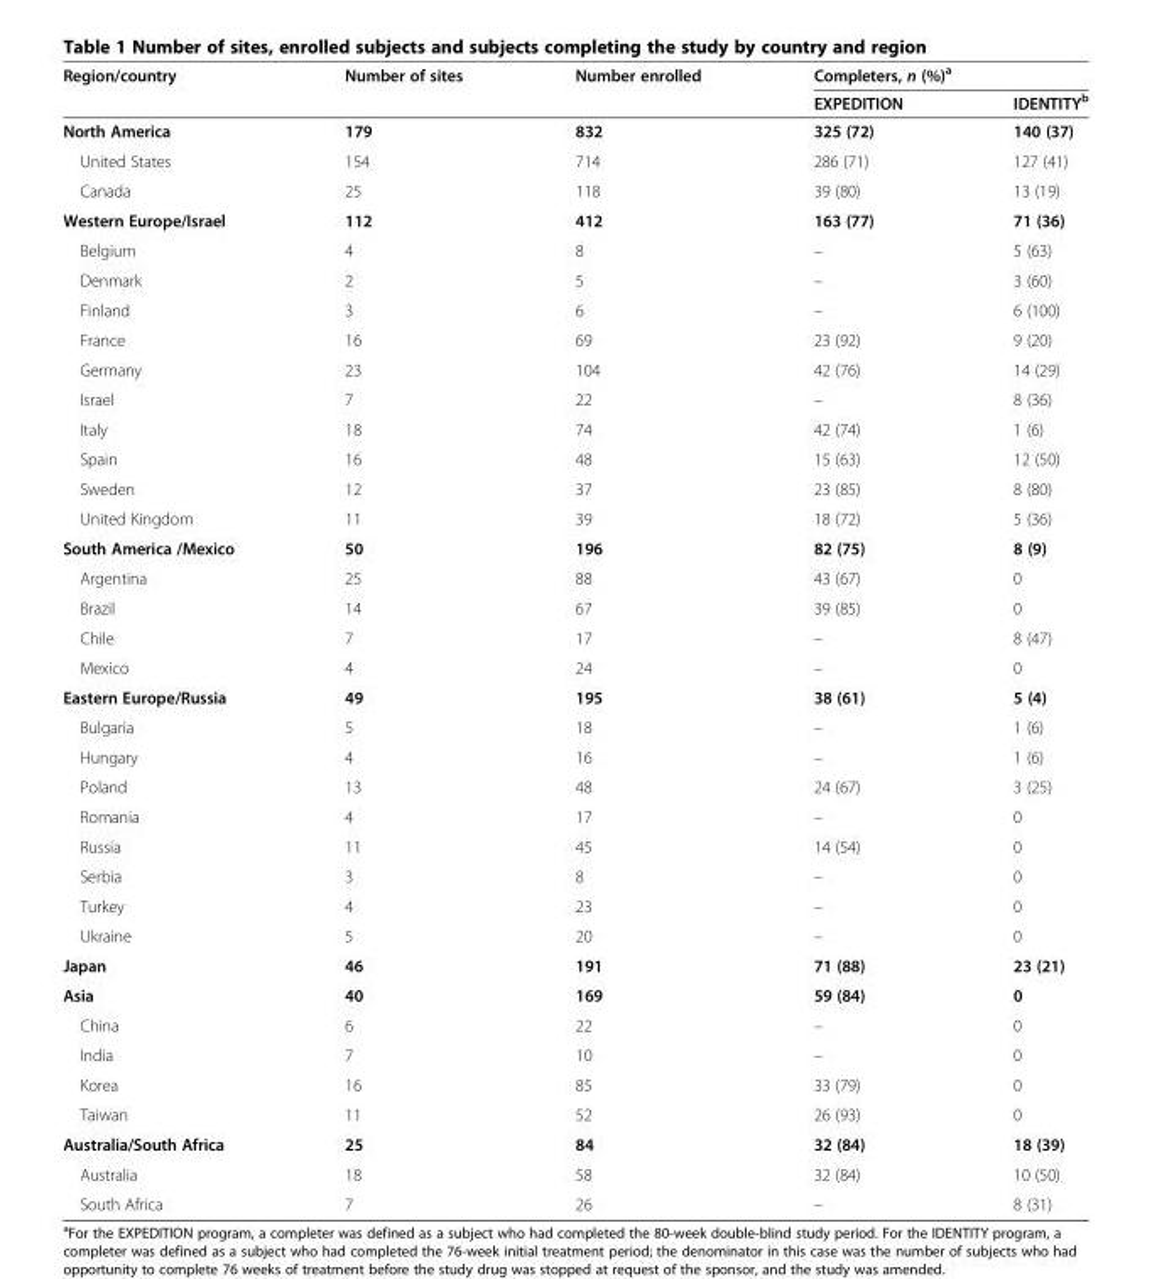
<table><thead><tr><td rowspan="2">Region/country</td><td rowspan="2">Number of sites</td><td rowspan="2">Number enrolled</td><td colspan="2">Completers, n (%)<sup>a</sup></td></tr><tr><td>EXPEDITION</td><td>IDENTITY<sup>b</sup></td></tr></thead><tbody><tr><td>North America</td><td>179</td><td>832</td><td>325 (72)</td><td>140 (37)</td></tr><tr><td>United States</td><td>154</td><td>714</td><td>286 (71)</td><td>127 (41)</td></tr><tr><td>Canada</td><td>25</td><td>118</td><td>39 (80)</td><td>13 (19)</td></tr><tr><td>Western Europe/Israel</td><td>112</td><td>412</td><td>163 (77)</td><td>71 (36)</td></tr><tr><td>Belgium</td><td>4</td><td>8</td><td>–</td><td>5 (63)</td></tr><tr><td>Denmark</td><td>2</td><td>5</td><td>–</td><td>3 (60)</td></tr><tr><td>Finland</td><td>3</td><td>6</td><td>–</td><td>6 (100)</td></tr><tr><td>France</td><td>16</td><td>69</td><td>23 (92)</td><td>9 (20)</td></tr><tr><td>Germany</td><td>23</td><td>104</td><td>42 (76)</td><td>14 (29)</td></tr><tr><td>Israel</td><td>7</td><td>22</td><td>–</td><td>8 (36)</td></tr><tr><td>Italy</td><td>18</td><td>74</td><td>42 (74)</td><td>1 (6)</td></tr><tr><td>Spain</td><td>16</td><td>48</td><td>15 (63)</td><td>12 (50)</td></tr><tr><td>Sweden</td><td>12</td><td>37</td><td>23 (85)</td><td>8 (80)</td></tr><tr><td>United Kingdom</td><td>11</td><td>39</td><td>18 (72)</td><td>5 (36)</td></tr><tr><td>South America /Mexico</td><td>50</td><td>196</td><td>82 (75)</td><td>8 (9)</td></tr><tr><td>Argentina</td><td>25</td><td>88</td><td>43 (67)</td><td>0</td></tr><tr><td>Brazil</td><td>14</td><td>67</td><td>39 (85)</td><td>0</td></tr><tr><td>Chile</td><td>7</td><td>17</td><td>–</td><td>8 (47)</td></tr><tr><td>Mexico</td><td>4</td><td>24</td><td>–</td><td>0</td></tr><tr><td>Eastern Europe/Russia</td><td>49</td><td>195</td><td>38 (61)</td><td>5 (4)</td></tr><tr><td>Bulgaria</td><td>5</td><td>18</td><td>–</td><td>1 (6)</td></tr><tr><td>Hungary</td><td>4</td><td>16</td><td>–</td><td>1 (6)</td></tr><tr><td>Poland</td><td>13</td><td>48</td><td>24 (67)</td><td>3 (25)</td></tr><tr><td>Romania</td><td>4</td><td>17</td><td>–</td><td>0</td></tr><tr><td>Russia</td><td>11</td><td>45</td><td>14 (54)</td><td>0</td></tr><tr><td>Serbia</td><td>3</td><td>8</td><td>–</td><td>0</td></tr><tr><td>Turkey</td><td>4</td><td>23</td><td>–</td><td>0</td></tr><tr><td>Ukraine</td><td>5</td><td>20</td><td>–</td><td>0</td></tr><tr><td>Japan</td><td>46</td><td>191</td><td>71 (88)</td><td>23 (21)</td></tr><tr><td>Asia</td><td>40</td><td>169</td><td>59 (84)</td><td>0</td></tr><tr><td>China</td><td>6</td><td>22</td><td>–</td><td>0</td></tr><tr><td>India</td><td>7</td><td>10</td><td>–</td><td>0</td></tr><tr><td>Korea</td><td>16</td><td>85</td><td>33 (79)</td><td>0</td></tr><tr><td>Taiwan</td><td>11</td><td>52</td><td>26 (93)</td><td>0</td></tr><tr><td>Australia/South Africa</td><td>25</td><td>84</td><td>32 (84)</td><td>18 (39)</td></tr><tr><td>Australia</td><td>18</td><td>58</td><td>32 (84)</td><td>10 (50)</td></tr><tr><td>South Africa</td><td>7</td><td>26</td><td>–</td><td>8 (31)</td></tr></tbody></table>